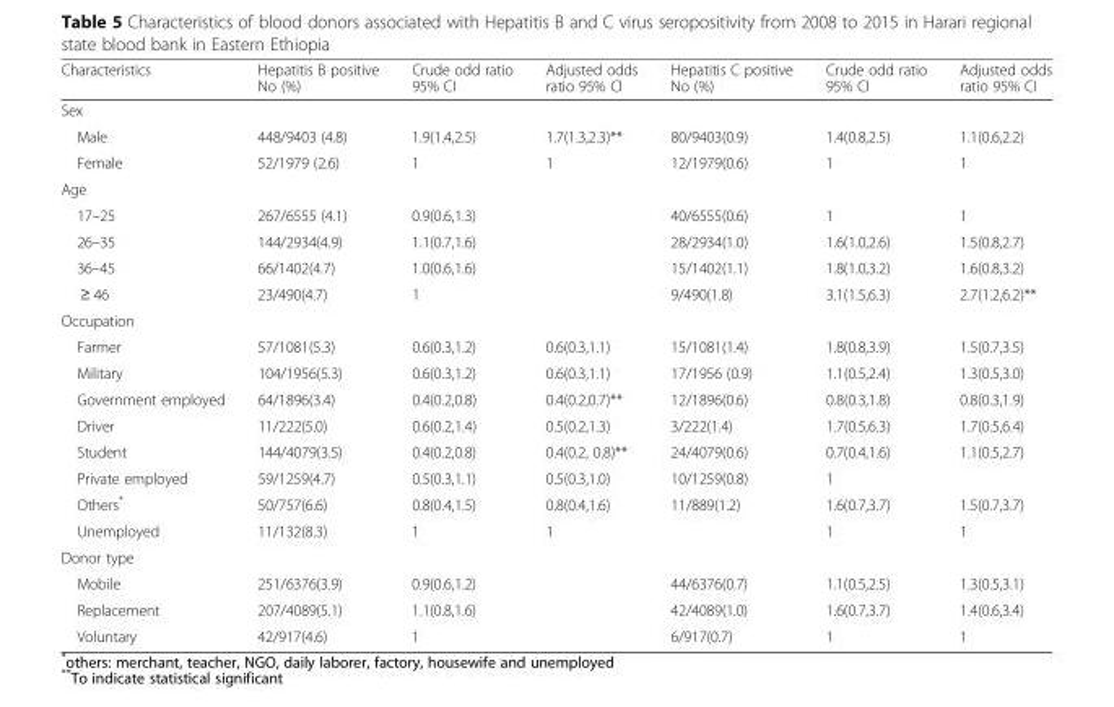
<table><thead><tr><td>Characteristics</td><td>Hepatitis B positive No (%)</td><td>Crude odd ratio 95% CI</td><td>Adjusted odds ratio 95% CI</td><td>Hepatitis C positive No (%)</td><td>Crude odd ratio 95% CI</td><td>Adjusted odds ratio 95% CI</td></tr></thead><tbody><tr><td colspan="7">Sex</td></tr><tr><td>Male</td><td>448/9403 (4.8)</td><td>1.9(1.4,2.5)</td><td>1.7(1.3,2.3)**</td><td>80/9403(0.9)</td><td>1.4(0.8,2.5)</td><td>1.1(0.6,2.2)</td></tr><tr><td>Female</td><td>52/1979 (2.6)</td><td>1</td><td>1</td><td>12/1979(0.6)</td><td>1</td><td>1</td></tr><tr><td colspan="7">Age</td></tr><tr><td>17–25</td><td>267/6555 (4.1)</td><td>0.9(0.6,1.3)</td><td></td><td>40/6555(0.6)</td><td>1</td><td>1</td></tr><tr><td>26–35</td><td>144/2934(4.9)</td><td>1.1(0.7,1.6)</td><td></td><td>28/2934(1.0)</td><td>1.6(1.0,2.6)</td><td>1.5(0.8,2.7)</td></tr><tr><td>36–45</td><td>66/1402(4.7)</td><td>1.0(0.6,1.6)</td><td></td><td>15/1402(1.1)</td><td>1.8(1.0,3.2)</td><td>1.6(0.8,3.2)</td></tr><tr><td>≥ 46</td><td>23/490(4.7)</td><td>1</td><td></td><td>9/490(1.8)</td><td>3.1(1.5,6.3)</td><td>2.7(1.2,6.2)**</td></tr><tr><td colspan="7">Occupation</td></tr><tr><td>Farmer</td><td>57/1081(5.3)</td><td>0.6(0.3,1.2)</td><td>0.6(0.3,1.1)</td><td>15/1081(1.4)</td><td>1.8(0.8,3.9)</td><td>1.5(0.7,3.5)</td></tr><tr><td>Military</td><td>104/1956(5.3)</td><td>0.6(0.3,1.2)</td><td>0.6(0.3,1.1)</td><td>17/1956 (0.9)</td><td>1.1(0.5,2.4)</td><td>1.3(0.5,3.0)</td></tr><tr><td>Government employed</td><td>64/1896(3.4)</td><td>0.4(0.2,0.8)</td><td>0.4(0.2,0.7)**</td><td>12/1896(0.6)</td><td>0.8(0.3,1.8)</td><td>0.8(0.3,1.9)</td></tr><tr><td>Driver</td><td>11/222(5.0)</td><td>0.6(0.2,1.4)</td><td>0.5(0.2,1.3)</td><td>3/222(1.4)</td><td>1.7(0.5,6.3)</td><td>1.7(0.5,6.4)</td></tr><tr><td>Student</td><td>144/4079(3.5)</td><td>0.4(0.2,0.8)</td><td>0.4(0.2, 0.8)**</td><td>24/4079(0.6)</td><td>0.7(0.4,1.6)</td><td>1.1(0.5,2.7)</td></tr><tr><td>Private employed</td><td>59/1259(4.7)</td><td>0.5(0.3,1.1)</td><td>0.5(0.3,1.0)</td><td>10/1259(0.8)</td><td>1</td><td></td></tr><tr><td>Others*</td><td>50/757(6.6)</td><td>0.8(0.4,1.5)</td><td>0.8(0.4,1.6)</td><td>11/889(1.2)</td><td>1.6(0.7,3.7)</td><td>1.5(0.7,3.7)</td></tr><tr><td>Unemployed</td><td>11/132(8.3)</td><td>1</td><td>1</td><td></td><td>1</td><td>1</td></tr><tr><td colspan="7">Donor type</td></tr><tr><td>Mobile</td><td>251/6376(3.9)</td><td>0.9(0.6,1.2)</td><td></td><td>44/6376(0.7)</td><td>1.1(0.5,2.5)</td><td>1.3(0.5,3.1)</td></tr><tr><td>Replacement</td><td>207/4089(5.1)</td><td>1.1(0.8,1.6)</td><td></td><td>42/4089(1.0)</td><td>1.6(0.7,3.7)</td><td>1.4(0.6,3.4)</td></tr><tr><td>Voluntary</td><td>42/917(4.6)</td><td>1</td><td></td><td>6/917(0.7)</td><td>1</td><td>1</td></tr></tbody></table>